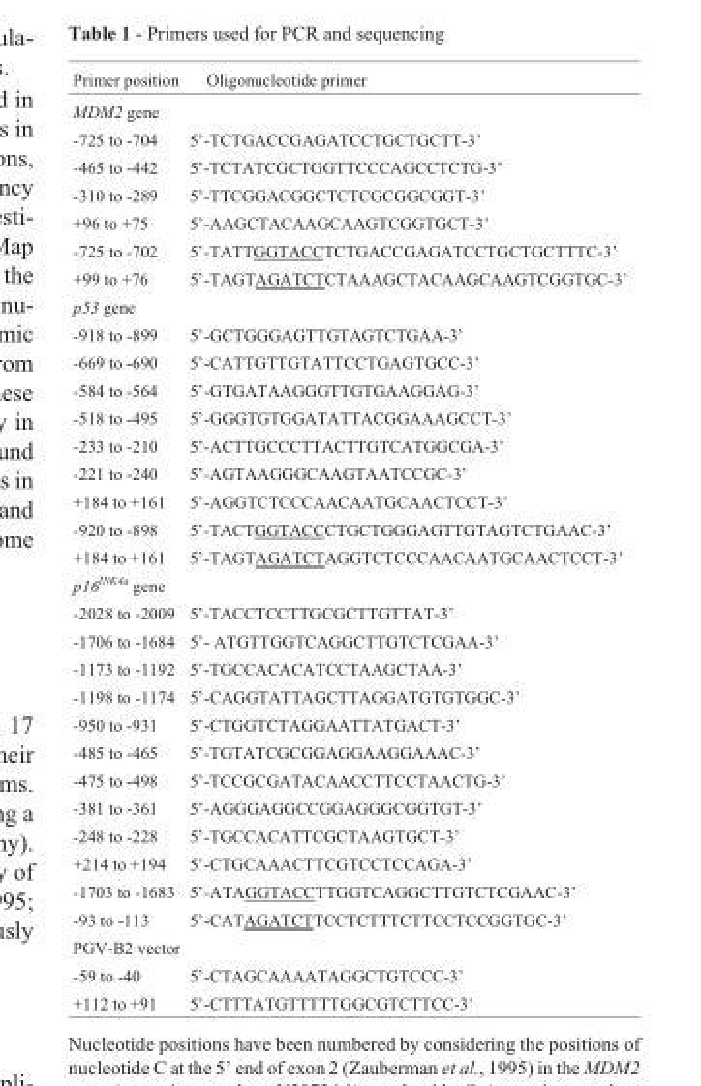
<table><thead><tr><td>Primer position</td><td>Oligonucleotide primer</td></tr></thead><tbody><tr><td colspan="2">MDM2 gene</td></tr><tr><td>-725 to -704</td><td>5’-TCTGACCGAGATCCTGCTGCTT-3’</td></tr><tr><td>-465 to -442</td><td>5’-TCTATCGCTGGTTCCCAGCCTCTG-3’</td></tr><tr><td>-310 to -289</td><td>5’-TTCGGACGGCTCTCGCGGCGGT-3’</td></tr><tr><td>+96 to +75</td><td>5’-AAGCTACAAGCAAGTCGGTGCT-3’</td></tr><tr><td>-725 to -702</td><td>5’-TATTGGTACCTCTGACCGAGATCCTGCTGCTTTC-3’</td></tr><tr><td>+99 to +76</td><td>5’-TAGTAGATCTCTAAAGCTACAAGCAAGTCGGTGC-3’</td></tr><tr><td colspan="2">p53 gene</td></tr><tr><td>-918 to -899</td><td>5’-GCTGGGAGTTGTAGTCTGAA-3’</td></tr><tr><td>-669 to -690</td><td>5’-CATTGTTGTATTCCTGAGTGCC-3’</td></tr><tr><td>-584 to -564</td><td>5’-GTGATAAGGGTTGTGAAGGAG-3’</td></tr><tr><td>-518 to -495</td><td>5’-GGGTGTGGATATTACGGAAAGCCT-3’</td></tr><tr><td>-233 to -210</td><td>5’-ACTTGCCCTTACTTGTCATGGCGA-3’</td></tr><tr><td>-221 to -240</td><td>5’-AGTAAGGGCAAGTAATCCGC-3’</td></tr><tr><td>+184 to +161</td><td>5’-AGGTCTCCCAACAATGCAACTCCT-3’</td></tr><tr><td>-920 to -898</td><td>5’-TACTGGTACCCTGCTGGGAGTTGTAGTCTGAAC-3’</td></tr><tr><td>+184 to +161</td><td>5’-TAGTAGATCTAGGTCTCCCAACAATGCAACTCCT-3’</td></tr><tr><td colspan="2">p16<sup>INK4a</sup> gene</td></tr><tr><td>-2028 to -2009</td><td>5’-TACCTCCTTGCGCTTGTTAT-3’</td></tr><tr><td>-1706 to -1684</td><td>5’- ATGTTGGTCAGGCTTGTCTCGAA-3’</td></tr><tr><td>-1173 to -1192</td><td>5’-TGCCACACATCCTAAGCTAA-3’</td></tr><tr><td>-1198 to -1174</td><td>5’-CAGGTATTAGCTTAGGATGTGTGGC-3’</td></tr><tr><td>-950 to -931</td><td>5’-CTGGTCTAGGAATTATGACT-3’</td></tr><tr><td>-485 to -465</td><td>5’-TGTATCGCGGAGGAAGGAAAC-3’</td></tr><tr><td>-475 to -498</td><td>5’-TCCGCGATACAACCTTCCTAACTG-3’</td></tr><tr><td>-381 to -361</td><td>5’-AGGGAGGCCGGAGGGCGGTGT-3’</td></tr><tr><td>-248 to -228</td><td>5’-TGCCACATTCGCTAAGTGCT-3’</td></tr><tr><td>+214 to +194</td><td>5’-CTGCAAACTTCGTCCTCCAGA-3’</td></tr><tr><td>-1703 to -1683</td><td>5’-ATAGGTACCTTGGTCAGGCTTGTCTCGAAC-3’</td></tr><tr><td>-93 to -113</td><td>5’-CATAGATCTTCCTCTTTCTTCCTCCGGTGC-3’</td></tr><tr><td colspan="2">PGV-B2 vector</td></tr><tr><td>-59 to -40</td><td>5’-CTAGCAAAATAGGCTGTCCC-3’</td></tr><tr><td>+112 to +91</td><td>5’-CTTTATGTTTTTGGCGTCTTCC-3’</td></tr></tbody></table>